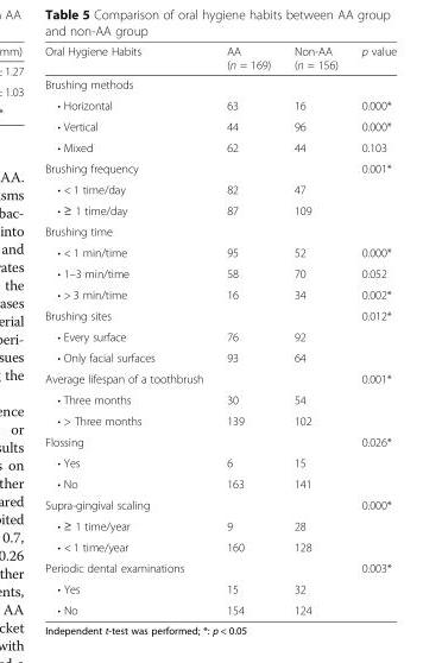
<table><thead><tr><td>Oral Hygiene Habits</td><td>AA (n = 169)</td><td>Non-AA (n = 156)</td><td>p value</td></tr></thead><tbody><tr><td colspan="4">Brushing methods</td></tr><tr><td>• Horizontal</td><td>63</td><td>16</td><td>0.000*</td></tr><tr><td>• Vertical</td><td>44</td><td>96</td><td>0.000*</td></tr><tr><td>• Mixed</td><td>62</td><td>44</td><td>0.103</td></tr><tr><td>Brushing frequency</td><td></td><td></td><td>0.001*</td></tr><tr><td>• &lt; 1 time/day</td><td>82</td><td>47</td><td></td></tr><tr><td>• ≥ 1 time/day</td><td>87</td><td>109</td><td></td></tr><tr><td colspan="4">Brushing time</td></tr><tr><td>• &lt; 1 min/time</td><td>95</td><td>52</td><td>0.000*</td></tr><tr><td>• 1–3 min/time</td><td>58</td><td>70</td><td>0.052</td></tr><tr><td>• &gt; 3 min/time</td><td>16</td><td>34</td><td>0.002*</td></tr><tr><td>Brushing sites</td><td></td><td></td><td>0.012*</td></tr><tr><td>• Every surface</td><td>76</td><td>92</td><td></td></tr><tr><td>• Only facial surfaces</td><td>93</td><td>64</td><td></td></tr><tr><td>Average lifespan of a toothbrush</td><td></td><td></td><td>0.001*</td></tr><tr><td>• Three months</td><td>30</td><td>54</td><td></td></tr><tr><td>• &gt; Three months</td><td>139</td><td>102</td><td></td></tr><tr><td>Flossing</td><td></td><td></td><td>0.026*</td></tr><tr><td>• Yes</td><td>6</td><td>15</td><td></td></tr><tr><td>• No</td><td>163</td><td>141</td><td></td></tr><tr><td>Supra-gingival scaling</td><td></td><td></td><td>0.000*</td></tr><tr><td>• ≥ 1 time/year</td><td>9</td><td>28</td><td></td></tr><tr><td>• &lt; 1 time/year</td><td>160</td><td>128</td><td></td></tr><tr><td>Periodic dental examinations</td><td></td><td></td><td>0.003*</td></tr><tr><td>• Yes</td><td>15</td><td>32</td><td></td></tr><tr><td>• No</td><td>154</td><td>124</td><td></td></tr></tbody></table>